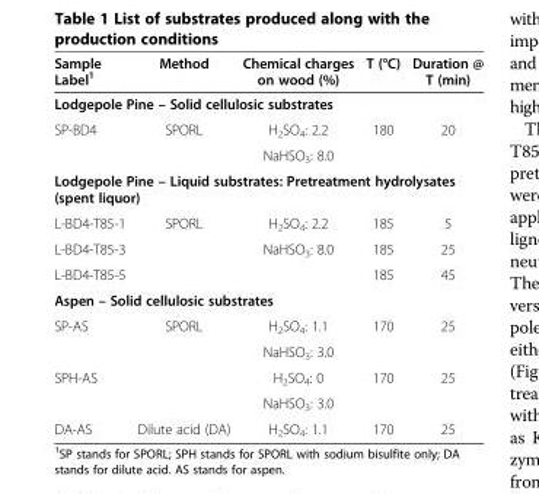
<table><thead><tr><td>Sample Label<sup>1</sup></td><td>Method</td><td>Chemical charges on wood (%)</td><td>T (°C)</td><td>Duration @ T (min)</td></tr></thead><tbody><tr><td colspan="5">Lodgepole Pine – Solid cellulosic substrates</td></tr><tr><td rowspan="2">SP-BD4</td><td rowspan="2">SPORL</td><td>H<sub>2</sub>SO<sub>4</sub>: 2.2</td><td rowspan="2">180</td><td rowspan="2">20</td></tr><tr><td>NaHSO<sub>3</sub>: 8.0</td></tr><tr><td colspan="5">Lodgepole Pine – Liquid substrates: Pretreatment hydrolysates (spent liquor)</td></tr><tr><td>L-BD4-T85-1</td><td rowspan="3">SPORL</td><td>H<sub>2</sub>SO<sub>4</sub>: 2.2</td><td>185</td><td>5</td></tr><tr><td>L-BD4-T85-3</td><td>NaHSO<sub>3</sub>: 8.0</td><td>185</td><td>25</td></tr><tr><td>L-BD4-T85-5</td><td></td><td>185</td><td>45</td></tr><tr><td colspan="5">Aspen – Solid cellulosic substrates</td></tr><tr><td rowspan="2">SP-AS</td><td rowspan="4">SPORL</td><td>H<sub>2</sub>SO<sub>4</sub>: 1.1</td><td rowspan="2">170</td><td rowspan="2">25</td></tr><tr><td>NaHSO<sub>3</sub>: 3.0</td></tr><tr><td rowspan="2">SPH-AS</td><td>H<sub>2</sub>SO<sub>4</sub>: 0</td><td rowspan="2">170</td><td rowspan="2">25</td></tr><tr><td>NaHSO<sub>3</sub>: 3.0</td></tr><tr><td>DA-AS</td><td>Dilute acid (DA)</td><td>H<sub>2</sub>SO<sub>4</sub>: 1.1</td><td>170</td><td>25</td></tr></tbody></table>